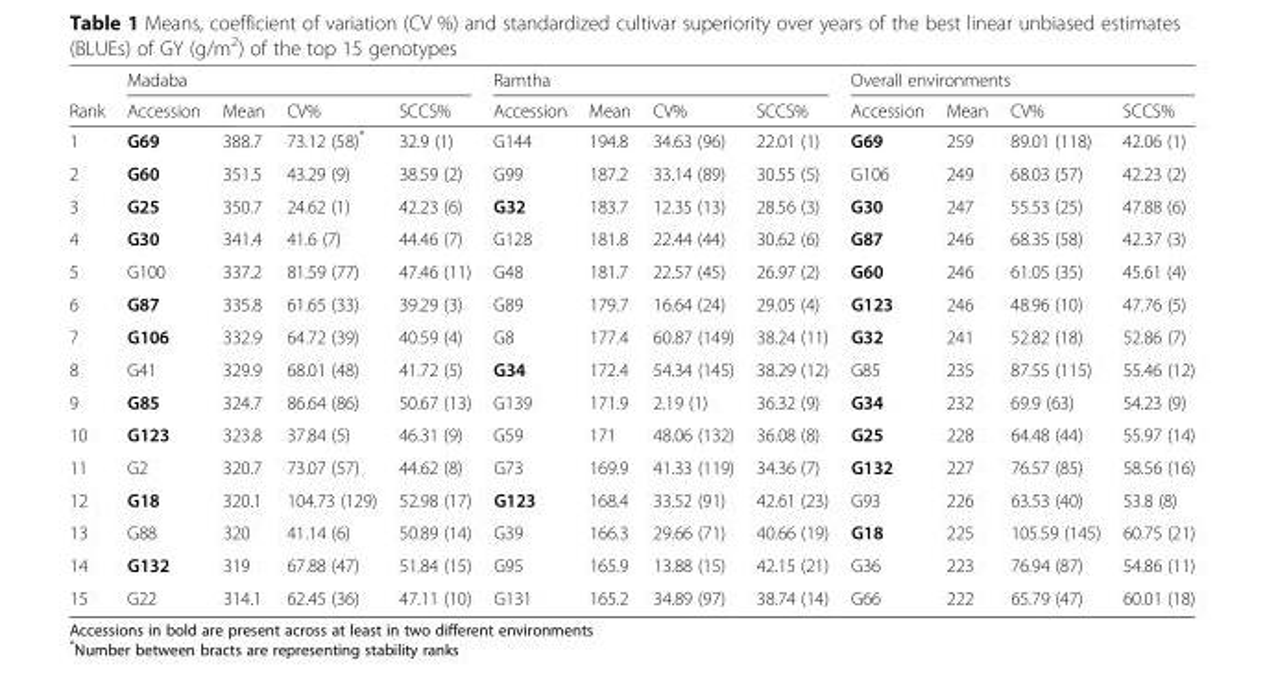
<table><thead><tr><td rowspan="2">Rank</td><td colspan="4">Madaba</td><td colspan="4">Ramtha</td><td colspan="4">Overall environments</td></tr><tr><td>Accession</td><td>Mean</td><td>CV%</td><td>SCCS%</td><td>Accession</td><td>Mean</td><td>CV%</td><td>SCCS%</td><td>Accession</td><td>Mean</td><td>CV%</td><td>SCCS%</td></tr></thead><tbody><tr><td>1</td><td>G69</td><td>388.7</td><td>73.12 (58)*</td><td>32.9 (1)</td><td>G144</td><td>194.8</td><td>34.63 (96)</td><td>22.01 (1)</td><td>G69</td><td>259</td><td>89.01 (118)</td><td>42.06 (1)</td></tr><tr><td>2</td><td>G60</td><td>351.5</td><td>43.29 (9)</td><td>38.59 (2)</td><td>G99</td><td>187.2</td><td>33.14 (89)</td><td>30.55 (5)</td><td>G106</td><td>249</td><td>68.03 (57)</td><td>42.23 (2)</td></tr><tr><td>3</td><td>G25</td><td>350.7</td><td>24.62 (1)</td><td>42.23 (6)</td><td>G32</td><td>183.7</td><td>12.35 (13)</td><td>28.56 (3)</td><td>G30</td><td>247</td><td>55.53 (25)</td><td>47.88 (6)</td></tr><tr><td>4</td><td>G30</td><td>341.4</td><td>41.6 (7)</td><td>44.46 (7)</td><td>G128</td><td>181.8</td><td>22.44 (44)</td><td>30.62 (6)</td><td>G87</td><td>246</td><td>68.35 (58)</td><td>42.37 (3)</td></tr><tr><td>5</td><td>G100</td><td>337.2</td><td>81.59 (77)</td><td>47.46 (11)</td><td>G48</td><td>181.7</td><td>22.57 (45)</td><td>26.97 (2)</td><td>G60</td><td>246</td><td>61.05 (35)</td><td>45.61 (4)</td></tr><tr><td>6</td><td>G87</td><td>335.8</td><td>61.65 (33)</td><td>39.29 (3)</td><td>G89</td><td>179.7</td><td>16.64 (24)</td><td>29.05 (4)</td><td>G123</td><td>246</td><td>48.96 (10)</td><td>47.76 (5)</td></tr><tr><td>7</td><td>G106</td><td>332.9</td><td>64.72 (39)</td><td>40.59 (4)</td><td>G8</td><td>177.4</td><td>60.87 (149)</td><td>38.24 (11)</td><td>G32</td><td>241</td><td>52.82 (18)</td><td>52.86 (7)</td></tr><tr><td>8</td><td>G41</td><td>329.9</td><td>68.01 (48)</td><td>41.72 (5)</td><td>G34</td><td>172.4</td><td>54.34 (145)</td><td>38.29 (12)</td><td>G85</td><td>235</td><td>87.55 (115)</td><td>55.46 (12)</td></tr><tr><td>9</td><td>G85</td><td>324.7</td><td>86.64 (86)</td><td>50.67 (13)</td><td>G139</td><td>171.9</td><td>2.19 (1)</td><td>36.32 (9)</td><td>G34</td><td>232</td><td>69.9 (63)</td><td>54.23 (9)</td></tr><tr><td>10</td><td>G123</td><td>323.8</td><td>37.84 (5)</td><td>46.31 (9)</td><td>G59</td><td>171</td><td>48.06 (132)</td><td>36.08 (8)</td><td>G25</td><td>228</td><td>64.48 (44)</td><td>55.97 (14)</td></tr><tr><td>11</td><td>G2</td><td>320.7</td><td>73.07 (57)</td><td>44.62 (8)</td><td>G73</td><td>169.9</td><td>41.33 (119)</td><td>34.36 (7)</td><td>G132</td><td>227</td><td>76.57 (85)</td><td>58.56 (16)</td></tr><tr><td>12</td><td>G18</td><td>320.1</td><td>104.73 (129)</td><td>52.98 (17)</td><td>G123</td><td>168.4</td><td>33.52 (91)</td><td>42.61 (23)</td><td>G93</td><td>226</td><td>63.53 (40)</td><td>53.8 (8)</td></tr><tr><td>13</td><td>G88</td><td>320</td><td>41.14 (6)</td><td>50.89 (14)</td><td>G39</td><td>166.3</td><td>29.66 (71)</td><td>40.66 (19)</td><td>G18</td><td>225</td><td>105.59 (145)</td><td>60.75 (21)</td></tr><tr><td>14</td><td>G132</td><td>319</td><td>67.88 (47)</td><td>51.84 (15)</td><td>G95</td><td>165.9</td><td>13.88 (15)</td><td>42.15 (21)</td><td>G36</td><td>223</td><td>76.94 (87)</td><td>54.86 (11)</td></tr><tr><td>15</td><td>G22</td><td>314.1</td><td>62.45 (36)</td><td>47.11 (10)</td><td>G131</td><td>165.2</td><td>34.89 (97)</td><td>38.74 (14)</td><td>G66</td><td>222</td><td>65.79 (47)</td><td>60.01 (18)</td></tr></tbody></table>